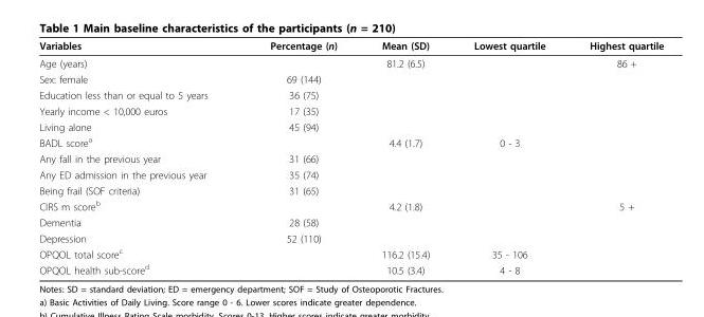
<table><thead><tr><td>Variables</td><td>Percentage (n)</td><td>Mean (SD)</td><td>Lowest quartile</td><td>Highest quartile</td></tr></thead><tbody><tr><td>Age (years)</td><td></td><td>81.2 (6.5)</td><td></td><td>86 +</td></tr><tr><td>Sex: female</td><td>69 (144)</td><td></td><td></td><td></td></tr><tr><td>Education less than or equal to 5 years</td><td>36 (75)</td><td></td><td></td><td></td></tr><tr><td>Yearly income &lt; 10,000 euros</td><td>17 (35)</td><td></td><td></td><td></td></tr><tr><td>Living alone</td><td>45 (94)</td><td></td><td></td><td></td></tr><tr><td>BADL score<sup>a</sup></td><td></td><td>4.4 (1.7)</td><td>0 - 3</td><td></td></tr><tr><td>Any fall in the previous year</td><td>31 (66)</td><td></td><td></td><td></td></tr><tr><td>Any ED admission in the previous year</td><td>35 (74)</td><td></td><td></td><td></td></tr><tr><td>Being frail (SOF criteria)</td><td>31 (65)</td><td></td><td></td><td></td></tr><tr><td>CIRS m score<sup>b</sup></td><td></td><td>4.2 (1.8)</td><td></td><td>5 +</td></tr><tr><td>Dementia</td><td>28 (58)</td><td></td><td></td><td></td></tr><tr><td>Depression</td><td>52 (110)</td><td></td><td></td><td></td></tr><tr><td>OPQOL total score<sup>c</sup></td><td></td><td>116.2 (15.4)</td><td>35 - 106</td><td></td></tr><tr><td>OPQOL health sub-score<sup>d</sup></td><td></td><td>10.5 (3.4)</td><td>4 - 8</td><td></td></tr></tbody></table>